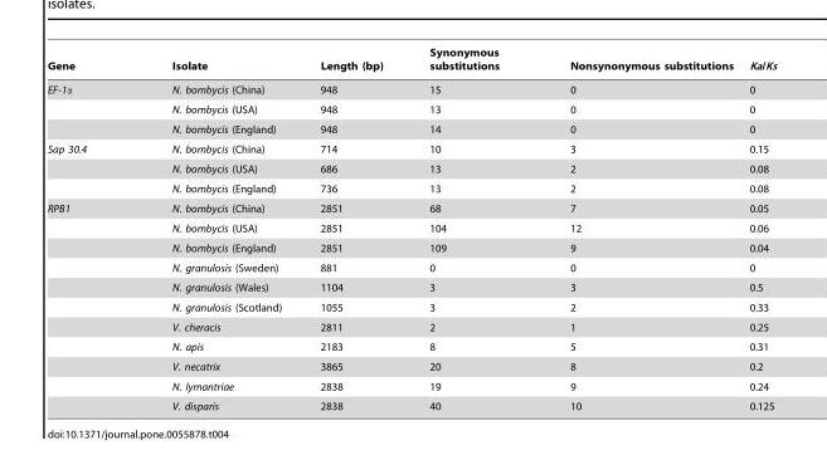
<table><thead><tr><td>Gene</td><td>Isolate</td><td>Length (bp)</td><td>Synonymous substitutions</td><td>Nonsynonymous substitutions</td><td>Ka/Ks</td></tr></thead><tbody><tr><td rowspan="3">EF-1α</td><td>N. bombycis (China)</td><td>948</td><td>15</td><td>0</td><td>0</td></tr><tr><td>N. bombycis (USA)</td><td>948</td><td>13</td><td>0</td><td>0</td></tr><tr><td>N. bombycis (England)</td><td>948</td><td>14</td><td>0</td><td>0</td></tr><tr><td rowspan="3">Sap 30.4</td><td>N. bombycis (China)</td><td>714</td><td>10</td><td>3</td><td>0.15</td></tr><tr><td>N. bombycis (USA)</td><td>686</td><td>13</td><td>2</td><td>0.08</td></tr><tr><td>N. bombycis (England)</td><td>736</td><td>13</td><td>2</td><td>0.08</td></tr><tr><td rowspan="11">RPB1</td><td>N. bombycis (China)</td><td>2851</td><td>68</td><td>7</td><td>0.05</td></tr><tr><td>N. bombycis (USA)</td><td>2851</td><td>104</td><td>12</td><td>0.06</td></tr><tr><td>N. bombycis (England)</td><td>2851</td><td>109</td><td>9</td><td>0.04</td></tr><tr><td>N. granulosis (Sweden)</td><td>881</td><td>0</td><td>0</td><td>0</td></tr><tr><td>N. granulosis (Wales)</td><td>1104</td><td>3</td><td>3</td><td>0.5</td></tr><tr><td>N. granulosis (Scotland)</td><td>1055</td><td>3</td><td>2</td><td>0.33</td></tr><tr><td>V. cheracis</td><td>2811</td><td>2</td><td>1</td><td>0.25</td></tr><tr><td>N. apis</td><td>2183</td><td>8</td><td>5</td><td>0.31</td></tr><tr><td>V. necatrix</td><td>3865</td><td>20</td><td>8</td><td>0.2</td></tr><tr><td>N. lymantriae</td><td>2838</td><td>19</td><td>9</td><td>0.24</td></tr><tr><td>V. disparis</td><td>2838</td><td>40</td><td>10</td><td>0.125</td></tr></tbody></table>